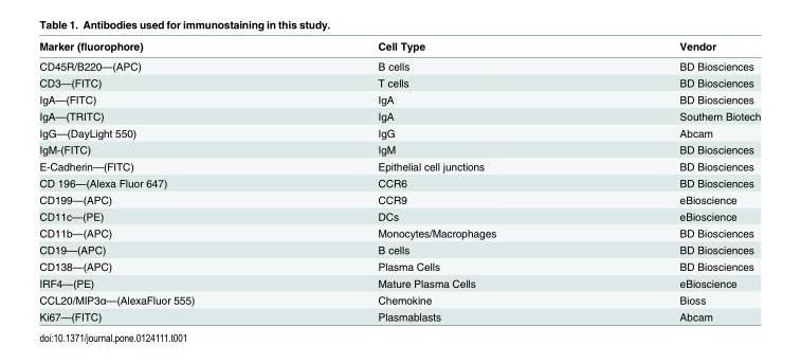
<table><thead><tr><td>Marker (fluorophore)</td><td>Cell Type</td><td>Vendor</td></tr></thead><tbody><tr><td>CD45R/B220—(APC)</td><td>B cells</td><td>BD Biosciences</td></tr><tr><td>CD3—(FITC)</td><td>T cells</td><td>BD Biosciences</td></tr><tr><td>IgA—(FITC)</td><td>IgA</td><td>BD Biosciences</td></tr><tr><td>IgA—(TRITC)</td><td>IgA</td><td>Southern Biotech</td></tr><tr><td>IgG—(DayLight 550)</td><td>IgG</td><td>Abcam</td></tr><tr><td>IgM-(FITC)</td><td>IgM</td><td>BD Biosciences</td></tr><tr><td>E-Cadherin—(FITC)</td><td>Epithelial cell junctions</td><td>BD Biosciences</td></tr><tr><td>CD 196—(Alexa Fluor 647)</td><td>CCR6</td><td>BD Biosciences</td></tr><tr><td>CD199—(APC)</td><td>CCR9</td><td>eBioscience</td></tr><tr><td>CD11c—(PE)</td><td>DCs</td><td>eBioscience</td></tr><tr><td>CD11b—(APC)</td><td>Monocytes/Macrophages</td><td>BD Biosciences</td></tr><tr><td>CD19—(APC)</td><td>B cells</td><td>BD Biosciences</td></tr><tr><td>CD138—(APC)</td><td>Plasma Cells</td><td>BD Biosciences</td></tr><tr><td>IRF4—(PE)</td><td>Mature Plasma Cells</td><td>eBioscience</td></tr><tr><td>CCL20/MIP3α—(AlexaFluor 555)</td><td>Chemokine</td><td>Bioss</td></tr><tr><td>Ki67—(FITC)</td><td>Plasmablasts</td><td>Abcam</td></tr></tbody></table>